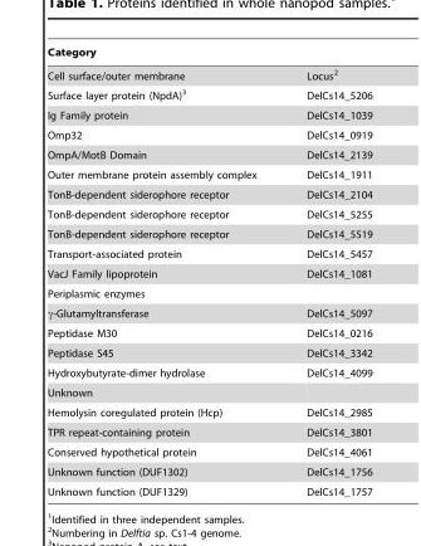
<table><thead><tr><td>Category</td><td></td></tr></thead><tbody><tr><td>Cell surface/outer membrane</td><td>Locus<sup>2</sup></td></tr><tr><td>Surface layer protein (NpdA)<sup>3</sup></td><td>DelCs14_5206</td></tr><tr><td>Ig Family protein</td><td>DelCs14_1039</td></tr><tr><td>Omp32</td><td>DelCs14_0919</td></tr><tr><td>OmpA/MotB Domain</td><td>DelCs14_2139</td></tr><tr><td>Outer membrane protein assembly complex</td><td>DelCs14_1911</td></tr><tr><td>TonB-dependent siderophore receptor</td><td>DelCs14_2104</td></tr><tr><td>TonB-dependent siderophore receptor</td><td>DelCs14_5255</td></tr><tr><td>TonB-dependent siderophore receptor</td><td>DelCs14_5519</td></tr><tr><td>Transport-associated protein</td><td>DelCs14_5457</td></tr><tr><td>VacJ Family lipoprotein</td><td>DelCs14_1081</td></tr><tr><td colspan="2">Periplasmic enzymes</td></tr><tr><td>γ-Glutamyltransferase</td><td>DelCs14_5097</td></tr><tr><td>Peptidase M30</td><td>DelCs14_0216</td></tr><tr><td>Peptidase S45</td><td>DelCs14_3342</td></tr><tr><td>Hydroxybutyrate-dimer hydrolase</td><td>DelCs14_4099</td></tr><tr><td colspan="2">Unknown</td></tr><tr><td>Hemolysin coregulated protein (Hcp)</td><td>DelCs14_2985</td></tr><tr><td>TPR repeat-containing protein</td><td>DelCs14_3801</td></tr><tr><td>Conserved hypothetical protein</td><td>DelCs14_4061</td></tr><tr><td>Unknown function (DUF1302)</td><td>DelCs14_1756</td></tr><tr><td>Unknown function (DUF1329)</td><td>DelCs14_1757</td></tr></tbody></table>